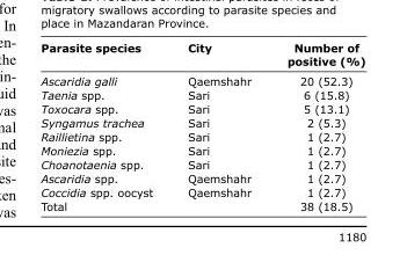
<table><thead><tr><td>Parasite species</td><td>City</td><td>Number of positive (%)</td></tr></thead><tbody><tr><td>Ascaridia galli</td><td>Qaemshahr</td><td>20 (52.3)</td></tr><tr><td>Taenia spp.</td><td>Sari</td><td>6 (15.8)</td></tr><tr><td>Toxocara spp.</td><td>Sari</td><td>5 (13.1)</td></tr><tr><td>Syngamus trachea</td><td>Sari</td><td>2 (5.3)</td></tr><tr><td>Raillietina spp.</td><td>Sari</td><td>1 (2.7)</td></tr><tr><td>Moniezia spp.</td><td>Sari</td><td>1 (2.7)</td></tr><tr><td>Choanotaenia spp.</td><td>Sari</td><td>1 (2.7)</td></tr><tr><td>Ascaridia spp.</td><td>Qaemshahr</td><td>1 (2.7)</td></tr><tr><td>Coccidia spp. oocyst</td><td>Qaemshahr</td><td>1 (2.7)</td></tr><tr><td>Total</td><td></td><td>38 (18.5)</td></tr></tbody></table>